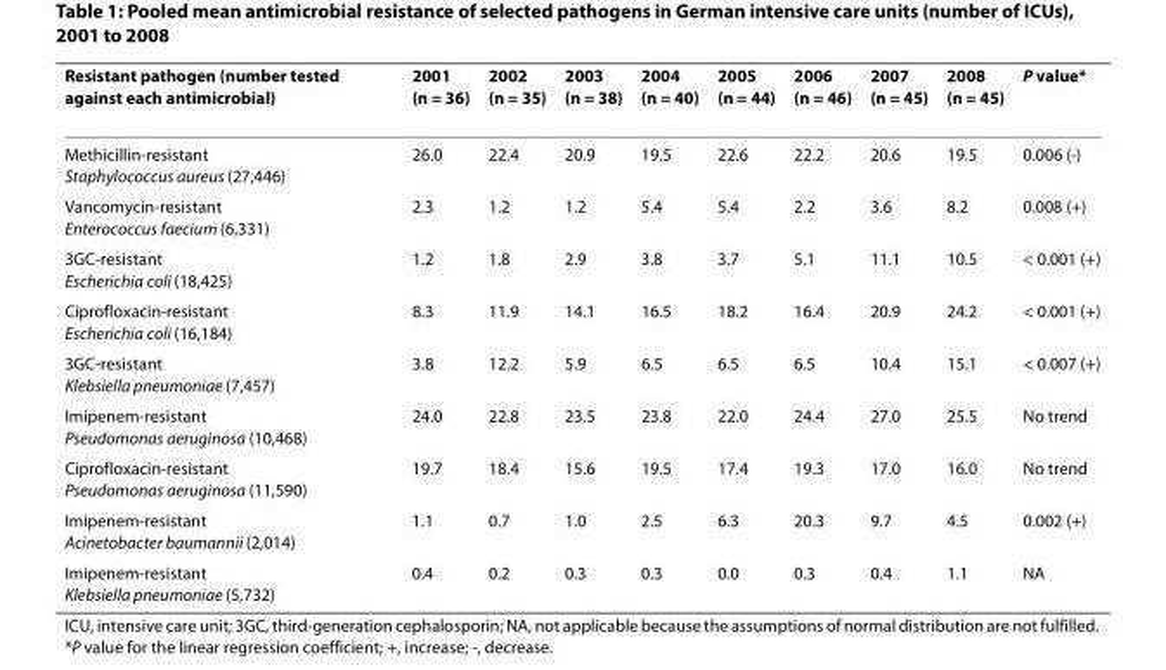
<table><thead><tr><td>Resistant pathogen (number tested against each antimicrobial)</td><td>2001 (n = 36)</td><td>2002 (n = 35)</td><td>2003 (n = 38)</td><td>2004 (n = 40)</td><td>2005 (n = 44)</td><td>2006 (n = 46)</td><td>2007 (n = 45)</td><td>2008 (n = 45)</td><td>P value*</td></tr></thead><tbody><tr><td>Methicillin-resistant Staphylococcus aureus (27,446)</td><td>26.0</td><td>22.4</td><td>20.9</td><td>19.5</td><td>22.6</td><td>22.2</td><td>20.6</td><td>19.5</td><td>0.006 (-)</td></tr><tr><td>Vancomycin-resistant Enterococcus faecium (6,331)</td><td>2.3</td><td>1.2</td><td>1.2</td><td>5.4</td><td>5.4</td><td>2.2</td><td>3.6</td><td>8.2</td><td>0.008 (+)</td></tr><tr><td>3GC-resistant Escherichia coli (18,425)</td><td>1.2</td><td>1.8</td><td>2.9</td><td>3.8</td><td>3.7</td><td>5.1</td><td>11.1</td><td>10.5</td><td>&lt; 0.001 (+)</td></tr><tr><td>Ciprofloxacin-resistant Escherichia coli (16,184)</td><td>8.3</td><td>11.9</td><td>14.1</td><td>16.5</td><td>18.2</td><td>16.4</td><td>20.9</td><td>24.2</td><td>&lt; 0.001 (+)</td></tr><tr><td>3GC-resistant Klebsiella pneumoniae (7,457)</td><td>3.8</td><td>12.2</td><td>5.9</td><td>6.5</td><td>6.5</td><td>6.5</td><td>10.4</td><td>15.1</td><td>&lt; 0.007 (+)</td></tr><tr><td>Imipenem-resistant Pseudomonas aeruginosa (10,468)</td><td>24.0</td><td>22.8</td><td>23.5</td><td>23.8</td><td>22.0</td><td>24.4</td><td>27.0</td><td>25.5</td><td>No trend</td></tr><tr><td>Ciprofloxacin-resistant Pseudomonas aeruginosa (11,590)</td><td>19.7</td><td>18.4</td><td>15.6</td><td>19.5</td><td>17.4</td><td>19.3</td><td>17.0</td><td>16.0</td><td>No trend</td></tr><tr><td>Imipenem-resistant Acinetobacter baumannii (2,014)</td><td>1.1</td><td>0.7</td><td>1.0</td><td>2.5</td><td>6.3</td><td>20.3</td><td>9.7</td><td>4.5</td><td>0.002 (+)</td></tr><tr><td>Imipenem-resistant Klebsiella pneumoniae (5,732)</td><td>0.4</td><td>0.2</td><td>0.3</td><td>0.3</td><td>0.0</td><td>0.3</td><td>0.4</td><td>1.1</td><td>NA</td></tr></tbody></table>